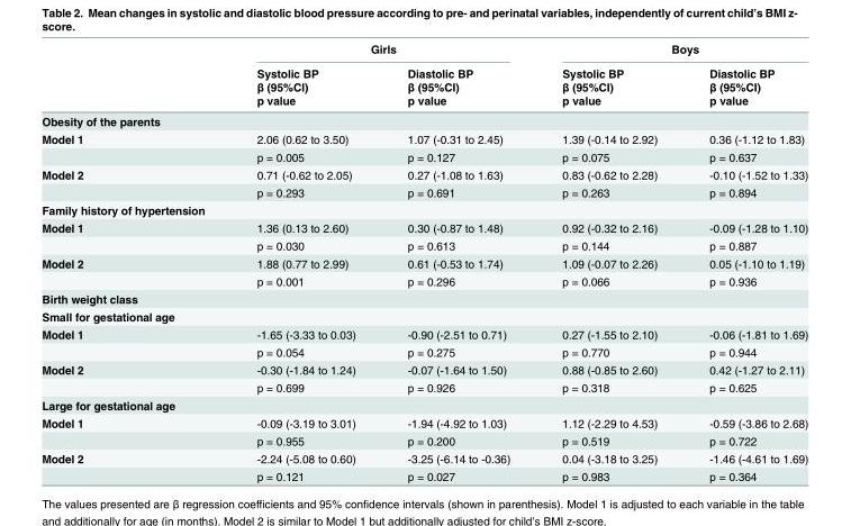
<table><thead><tr><td rowspan="4"></td><td colspan="2">Girls</td><td colspan="2">Boys</td></tr><tr><td rowspan="3">Systolic BP β (95%CI) p value</td><td rowspan="3">Diastolic BP β (95%CI) p value</td><td rowspan="3">Systolic BP β (95%CI) p value</td><td rowspan="3">Diastolic BP β (95%CI) p value</td></tr><tr></tr><tr></tr></thead><tbody><tr><td colspan="5">Obesity of the parents</td></tr><tr><td rowspan="2">Model 1</td><td>2.06 (0.62 to 3.50)</td><td>1.07 (-0.31 to 2.45)</td><td>1.39 (-0.14 to 2.92)</td><td>0.36 (-1.12 to 1.83)</td></tr><tr><td>p = 0.005</td><td>p = 0.127</td><td>p = 0.075</td><td>p = 0.637</td></tr><tr><td rowspan="2">Model 2</td><td>0.71 (-0.62 to 2.05)</td><td>0.27 (-1.08 to 1.63)</td><td>0.83 (-0.62 to 2.28)</td><td>-0.10 (-1.52 to 1.33)</td></tr><tr><td>p = 0.293</td><td>p = 0.691</td><td>p = 0.263</td><td>p = 0.894</td></tr><tr><td colspan="5">Family history of hypertension</td></tr><tr><td rowspan="2">Model 1</td><td>1.36 (0.13 to 2.60)</td><td>0.30 (-0.87 to 1.48)</td><td>0.92 (-0.32 to 2.16)</td><td>-0.09 (-1.28 to 1.10)</td></tr><tr><td>p = 0.030</td><td>p = 0.613</td><td>p = 0.144</td><td>p = 0.887</td></tr><tr><td rowspan="2">Model 2</td><td>1.88 (0.77 to 2.99)</td><td>0.61 (-0.53 to 1.74)</td><td>1.09 (-0.07 to 2.26)</td><td>0.05 (-1.10 to 1.19)</td></tr><tr><td>p = 0.001</td><td>p = 0.296</td><td>p = 0.066</td><td>p = 0.936</td></tr><tr><td colspan="5">Birth weight class</td></tr><tr><td colspan="5">Small for gestational age</td></tr><tr><td rowspan="2">Model 1</td><td>-1.65 (-3.33 to 0.03)</td><td>-0.90 (-2.51 to 0.71)</td><td>0.27 (-1.55 to 2.10)</td><td>-0.06 (-1.81 to 1.69)</td></tr><tr><td>p = 0.054</td><td>p = 0.275</td><td>p = 0.770</td><td>p = 0.944</td></tr><tr><td rowspan="2">Model 2</td><td>-0.30 (-1.84 to 1.24)</td><td>-0.07 (-1.64 to 1.50)</td><td>0.88 (-0.85 to 2.60)</td><td>0.42 (-1.27 to 2.11)</td></tr><tr><td>p = 0.699</td><td>p = 0.926</td><td>p = 0.318</td><td>p = 0.625</td></tr><tr><td colspan="5">Large for gestational age</td></tr><tr><td rowspan="2">Model 1</td><td>-0.09 (-3.19 to 3.01)</td><td>-1.94 (-4.92 to 1.03)</td><td>1.12 (-2.29 to 4.53)</td><td>-0.59 (-3.86 to 2.68)</td></tr><tr><td>p = 0.955</td><td>p = 0.200</td><td>p = 0.519</td><td>p = 0.722</td></tr><tr><td rowspan="2">Model 2</td><td>-2.24 (-5.08 to 0.60)</td><td>-3.25 (-6.14 to -0.36)</td><td>0.04 (-3.18 to 3.25)</td><td>-1.46 (-4.61 to 1.69)</td></tr><tr><td>p = 0.121</td><td>p = 0.027</td><td>p = 0.983</td><td>p = 0.364</td></tr></tbody></table>